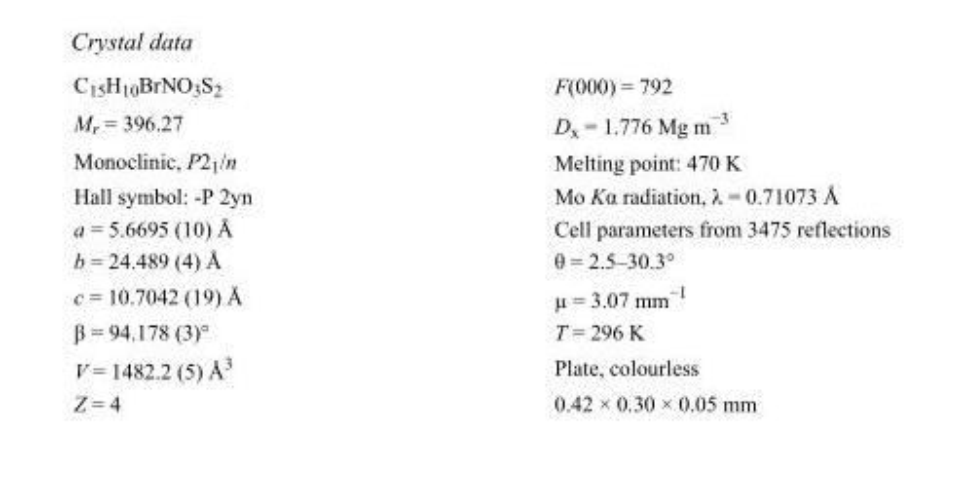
<table><tbody><tr><td>C<sub>15</sub>H<sub>10</sub>BrNO<sub>3</sub>S<sub>2</sub></td><td>F(000) = 792</td></tr><tr><td>M<sub>r</sub> = 396.27</td><td>D<sub>x</sub> = 1.776 Mg m<sup>−3</sup></td></tr><tr><td>Monoclinic, P2<sub>1</sub>/n</td><td>Melting point: 470 K</td></tr><tr><td>Hall symbol: -P 2yn</td><td>Mo Kα radiation, λ = 0.71073 Å</td></tr><tr><td>a = 5.6695 (10) Å</td><td>Cell parameters from 3475 reflections</td></tr><tr><td>b = 24.489 (4) Å</td><td>θ = 2.5–30.3°</td></tr><tr><td>c = 10.7042 (19) Å</td><td>µ = 3.07 mm<sup>−1</sup></td></tr><tr><td>β = 94.178 (3)°</td><td>T = 296 K</td></tr><tr><td>V = 1482.2 (5) Å<sup>3</sup></td><td>Plate, colourless</td></tr><tr><td>Z = 4</td><td>0.42 × 0.30 × 0.05 mm</td></tr></tbody></table>